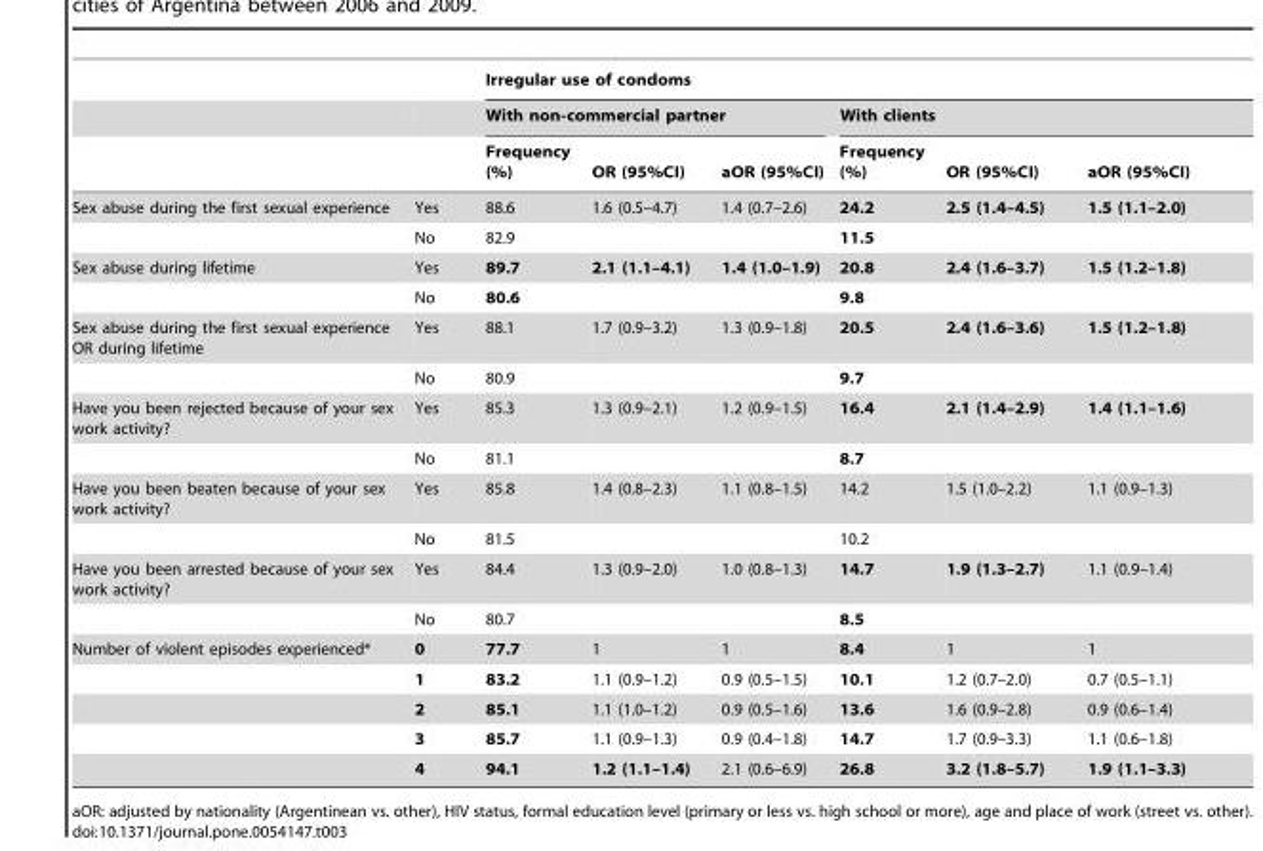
<table><thead><tr><td rowspan="3"></td><td rowspan="3"></td><td colspan="6">Irregular use of condoms</td></tr><tr><td colspan="3">With non-commercial partner</td><td colspan="3">With clients</td></tr><tr><td>Frequency (%)</td><td>OR (95%CI)</td><td>aOR (95%CI)</td><td>Frequency (%)</td><td>OR (95%CI)</td><td>aOR (95%CI)</td></tr></thead><tbody><tr><td rowspan="2">Sex abuse during the first sexual experience</td><td>Yes</td><td>88.6</td><td>1.6 (0.5–4.7)</td><td>1.4 (0.7–2.6)</td><td>24.2</td><td>2.5 (1.4–4.5)</td><td>1.5 (1.1–2.0)</td></tr><tr><td>No</td><td>82.9</td><td></td><td></td><td>11.5</td><td></td><td></td></tr><tr><td rowspan="2">Sex abuse during lifetime</td><td>Yes</td><td>89.7</td><td>2.1 (1.1–4.1)</td><td>1.4 (1.0–1.9)</td><td>20.8</td><td>2.4 (1.6–3.7)</td><td>1.5 (1.2–1.8)</td></tr><tr><td>No</td><td>80.6</td><td></td><td></td><td>9.8</td><td></td><td></td></tr><tr><td rowspan="2">Sex abuse during the first sexual experience OR during lifetime</td><td>Yes</td><td>88.1</td><td>1.7 (0.9–3.2)</td><td>1.3 (0.9–1.8)</td><td>20.5</td><td>2.4 (1.6–3.6)</td><td>1.5 (1.2–1.8)</td></tr><tr><td>No</td><td>80.9</td><td></td><td></td><td>9.7</td><td></td><td></td></tr><tr><td rowspan="2">Have you been rejected because of your sex work activity?</td><td>Yes</td><td>85.3</td><td>1.3 (0.9–2.1)</td><td>1.2 (0.9–1.5)</td><td>16.4</td><td>2.1 (1.4–2.9)</td><td>1.4 (1.1–1.6)</td></tr><tr><td>No</td><td>81.1</td><td></td><td></td><td>8.7</td><td></td><td></td></tr><tr><td rowspan="2">Have you been beaten because of your sex work activity?</td><td>Yes</td><td>85.8</td><td>1.4 (0.8–2.3)</td><td>1.1 (0.8–1.5)</td><td>14.2</td><td>1.5 (1.0–2.2)</td><td>1.1 (0.9–1.3)</td></tr><tr><td>No</td><td>81.5</td><td></td><td></td><td>10.2</td><td></td><td></td></tr><tr><td rowspan="2">Have you been arrested because of your sex work activity?</td><td>Yes</td><td>84.4</td><td>1.3 (0.9–2.0)</td><td>1.0 (0.8–1.3)</td><td>14.7</td><td>1.9 (1.3–2.7)</td><td>1.1 (0.9–1.4)</td></tr><tr><td>No</td><td>80.7</td><td></td><td></td><td>8.5</td><td></td><td></td></tr><tr><td rowspan="5">Number of violent episodes experienced*</td><td>0</td><td>77.7</td><td>1</td><td>1</td><td>8.4</td><td>1</td><td>1</td></tr><tr><td>1</td><td>83.2</td><td>1.1 (0.9–1.2)</td><td>0.9 (0.5–1.5)</td><td>10.1</td><td>1.2 (0.7–2.0)</td><td>0.7 (0.5–1.1)</td></tr><tr><td>2</td><td>85.1</td><td>1.1 (1.0–1.2)</td><td>0.9 (0.5–1.6)</td><td>13.6</td><td>1.6 (0.9–2.8)</td><td>0.9 (0.6–1.4)</td></tr><tr><td>3</td><td>85.7</td><td>1.1 (0.9–1.3)</td><td>0.9 (0.4–1.8)</td><td>14.7</td><td>1.7 (0.9–3.3)</td><td>1.1 (0.6–1.8)</td></tr><tr><td>4</td><td>94.1</td><td>1.2 (1.1–1.4)</td><td>2.1 (0.6–6.9)</td><td>26.8</td><td>3.2 (1.8–5.7)</td><td>1.9 (1.1–3.3)</td></tr></tbody></table>